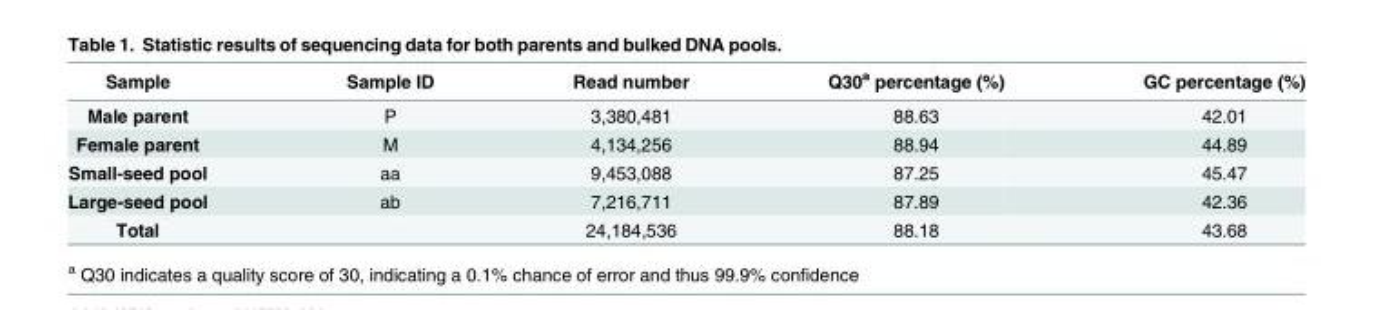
<table><thead><tr><td>Sample</td><td>Sample ID</td><td>Read number</td><td>Q30<sup>a</sup> percentage (%)</td><td>GC percentage (%)</td></tr></thead><tbody><tr><td>Male parent</td><td>P</td><td>3,380,481</td><td>88.63</td><td>42.01</td></tr><tr><td>Female parent</td><td>M</td><td>4,134,256</td><td>88.94</td><td>44.89</td></tr><tr><td>Small-seed pool</td><td>aa</td><td>9,453,088</td><td>87.25</td><td>45.47</td></tr><tr><td>Large-seed pool</td><td>ab</td><td>7,216,711</td><td>87.89</td><td>42.36</td></tr><tr><td>Total</td><td></td><td>24,184,536</td><td>88.18</td><td>43.68</td></tr></tbody></table>